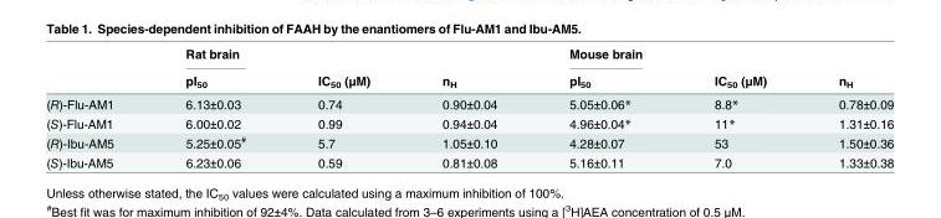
<table><thead><tr><td rowspan="2"></td><td rowspan="2">Rat brain pI<sub>50</sub></td><td rowspan="2">IC<sub>50</sub> (μM)</td><td rowspan="2">n<sub>H</sub></td><td rowspan="2">Mouse brain pI<sub>50</sub></td><td rowspan="2">IC<sub>50</sub> (μM)</td><td rowspan="2">n<sub>H</sub></td></tr><tr></tr></thead><tbody><tr><td>(R)-Flu-AM1</td><td>6.13±0.03</td><td>0.74</td><td>0.90±0.04</td><td>5.05±0.06*</td><td>8.8*</td><td>0.78±0.09</td></tr><tr><td>(S)-Flu-AM1</td><td>6.00±0.02</td><td>0.99</td><td>0.94±0.04</td><td>4.96±0.04*</td><td>11*</td><td>1.31±0.16</td></tr><tr><td>(R)-Ibu-AM5</td><td>5.25±0.05<sup>#</sup></td><td>5.7</td><td>1.05±0.10</td><td>4.28±0.07</td><td>53</td><td>1.50±0.36</td></tr><tr><td>(S)-Ibu-AM5</td><td>6.23±0.06</td><td>0.59</td><td>0.81±0.08</td><td>5.16±0.11</td><td>7.0</td><td>1.33±0.38</td></tr></tbody></table>